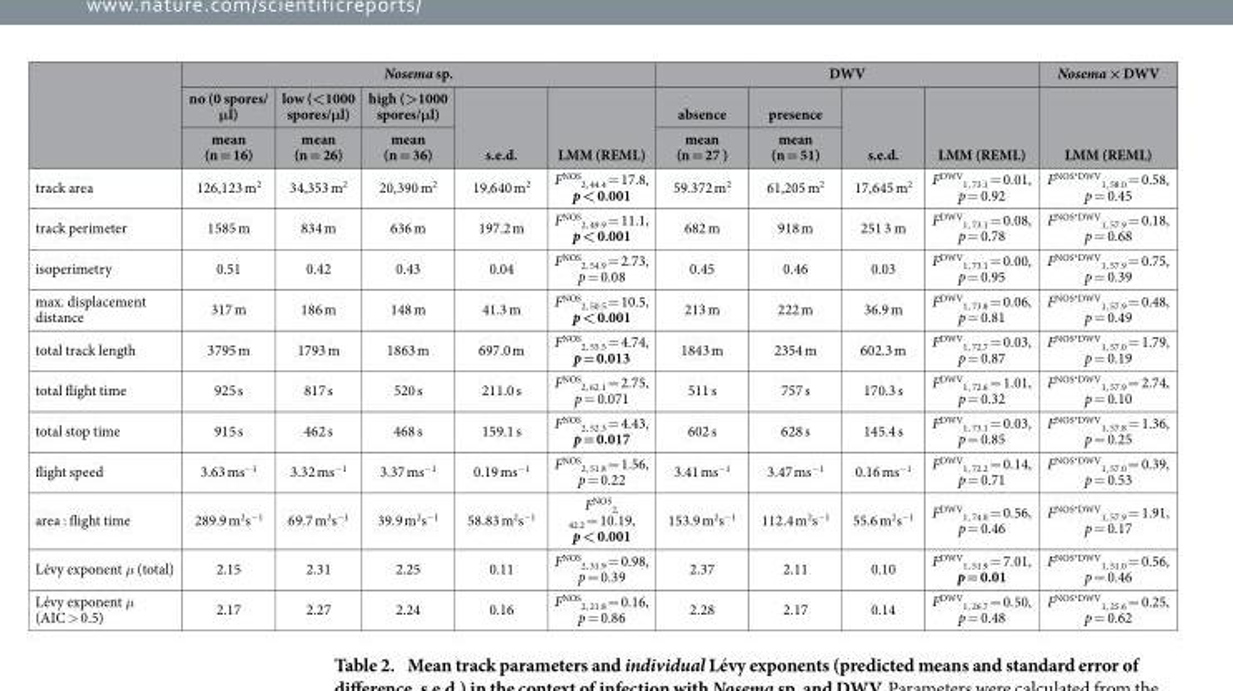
<table><thead><tr><td rowspan="3"></td><td colspan="5">Nosema sp.</td><td colspan="4">DWV</td><td rowspan="3">Nosema × DWV LMM (REML)</td></tr><tr><td rowspan="2">no (0 spores/ μl) mean (n = 16)</td><td rowspan="2">low (&lt;1000 spores/μl) mean (n = 26)</td><td rowspan="2">high (&gt;1000 spores/μl) mean (n = 36)</td><td rowspan="2">s.e.d.</td><td rowspan="2">LMM (REML)</td><td rowspan="2">absence mean (n = 27 )</td><td rowspan="2">presence mean (n = 51)</td><td rowspan="2">s.e.d.</td><td rowspan="2">LMM (REML)</td></tr><tr></tr></thead><tbody><tr><td>track area</td><td>126,123 m<sup>2</sup></td><td>34,353 m<sup>2</sup></td><td>20,390 m<sup>2</sup></td><td>19,640 m<sup>2</sup></td><td>F<sup>NOS</sup> <sub>2, 44.4</sub> = 17.8, p &lt; 0.001</td><td>59.372 m<sup>2</sup></td><td>61,205 m<sup>2</sup></td><td>17,645 m<sup>2</sup></td><td>F<sup>DWV</sup> <sub>1, 73.1</sub> = 0.01, p = 0.92</td><td>F<sup>NOS*DWV</sup> <sub>1, 58.0</sub> = 0.58, p = 0.45</td></tr><tr><td>track perimeter</td><td>1585 m</td><td>834 m</td><td>636 m</td><td>197.2 m</td><td>F<sup>NOS</sup> <sub>2, 49.9</sub> = 11.1, p &lt; 0.001</td><td>682 m</td><td>918 m</td><td>251 3 m</td><td>F<sup>DWV</sup> <sub>1, 73.1</sub> = 0.08, p = 0.78</td><td>F<sup>NOS*DWV</sup> <sub>1, 57.9</sub> = 0.18, p = 0.68</td></tr><tr><td>isoperimetry</td><td>0.51</td><td>0.42</td><td>0.43</td><td>0.04</td><td>F<sup>NOS</sup> <sub>2, 54.9</sub> = 2.73, p = 0.08</td><td>0.45</td><td>0.46</td><td>0.03</td><td>F<sup>DWV</sup> <sub>1, 73.1</sub> = 0.00, p = 0.95</td><td>F<sup>NOS*DWV</sup> <sub>1, 57.9</sub> = 0.75, p = 0.39</td></tr><tr><td>max. displacement distance</td><td>317 m</td><td>186 m</td><td>148 m</td><td>41.3 m</td><td>F<sup>NOS</sup> <sub>2, 50.5</sub> = 10.5, p &lt; 0.001</td><td>213 m</td><td>222 m</td><td>36.9 m</td><td>F<sup>DWV</sup> <sub>1, 73.8</sub> = 0.06, p = 0.81</td><td>F<sup>NOS*DWV</sup> <sub>1, 57.9</sub> = 0.48, p = 0.49</td></tr><tr><td>total track length</td><td>3795 m</td><td>1793 m</td><td>1863 m</td><td>697.0 m</td><td>F<sup>NOS</sup> <sub>2, 55.5</sub> = 4.74, p = 0.013</td><td>1843 m</td><td>2354 m</td><td>602.3 m</td><td>F<sup>DWV</sup> <sub>1, 72.7</sub> = 0.03, p = 0.87</td><td>F<sup>NOS*DWV</sup> <sub>1, 57.0</sub> = 1.79, p = 0.19</td></tr><tr><td>total flight time</td><td>925 s</td><td>817 s</td><td>520 s</td><td>211.0 s</td><td>F<sup>NOS</sup> <sub>2, 62.1</sub> = 2.75, p = 0.071</td><td>511 s</td><td>757 s</td><td>170.3 s</td><td>F<sup>DWV</sup> <sub>1, 72.6</sub> = 1.01, p = 0.32</td><td>F<sup>NOS*DWV</sup> <sub>1, 57.9</sub> = 2.74, p = 0.10</td></tr><tr><td>total stop time</td><td>915 s</td><td>462 s</td><td>468 s</td><td>159.1 s</td><td>F<sup>NOS</sup> <sub>2, 52.3</sub> = 4.43, p = 0.017</td><td>602 s</td><td>628 s</td><td>145.4 s</td><td>F<sup>DWV</sup> <sub>1, 73.1</sub> = 0.03, p = 0.85</td><td>F<sup>NOS*DWV</sup> <sub>1, 57.8</sub> = 1.36, p = 0.25</td></tr><tr><td>flight speed</td><td>3.63 ms<sup>−1</sup></td><td>3.32 ms<sup>−1</sup></td><td>3.37 ms<sup>−1</sup></td><td>0.19 ms<sup>−1</sup></td><td>F<sup>NOS</sup> <sub>2, 51.8</sub> = 1.56, p = 0.22</td><td>3.41 ms<sup>−1</sup></td><td>3.47 ms<sup>−1</sup></td><td>0.16 ms<sup>−1</sup></td><td>F<sup>DWV</sup> <sub>1, 72.2</sub> = 0.14, p = 0.71</td><td>F<sup>NOS*DWV</sup> <sub>1, 57.0</sub> = 0.39, p = 0.53</td></tr><tr><td>area : flight time</td><td>289.9 m<sup>2</sup>s<sup>−1</sup></td><td>69.7 m<sup>2</sup>s<sup>−1</sup></td><td>39.9 m<sup>2</sup>s<sup>−1</sup></td><td>58.83 m<sup>2</sup>s<sup>−1</sup></td><td>F<sup>NOS</sup> <sub>2, 42.2</sub> = 10.19, p &lt; 0.001</td><td>153.9 m<sup>2</sup>s<sup>−1</sup></td><td>112.4 m<sup>2</sup>s<sup>−1</sup></td><td>55.6 m<sup>2</sup>s<sup>−1</sup></td><td>F<sup>DWV</sup> <sub>1, 74.0</sub> = 0.56, p = 0.46</td><td>F<sup>NOS*DWV</sup> <sub>1, 57.9</sub> = 1.91, p = 0.17</td></tr><tr><td>Lévy exponent μ (total)</td><td>2.15</td><td>2.31</td><td>2.25</td><td>0.11</td><td>F<sup>NOS</sup> <sub>2, 31.9</sub> = 0.98, p = 0.39</td><td>2.37</td><td>2.11</td><td>0.10</td><td>F<sup>DWV</sup> <sub>1, 51.9</sub> = 7.01, p = 0.01</td><td>F<sup>NOS*DWV</sup> <sub>1, 51.0</sub> = 0.56, p = 0.46</td></tr><tr><td>Lévy exponent μ (AIC &gt; 0.5)</td><td>2.17</td><td>2.27</td><td>2.24</td><td>0.16</td><td>F<sup>NOS</sup> <sub>2, 21.8</sub> = 0.16, p = 0.86</td><td>2.28</td><td>2.17</td><td>0.14</td><td>F<sup>DWV</sup> <sub>1, 26.7</sub> = 0.50, p = 0.48</td><td>F<sup>NOS*DWV</sup> <sub>1, 25.6</sub> = 0.25, p = 0.62</td></tr></tbody></table>